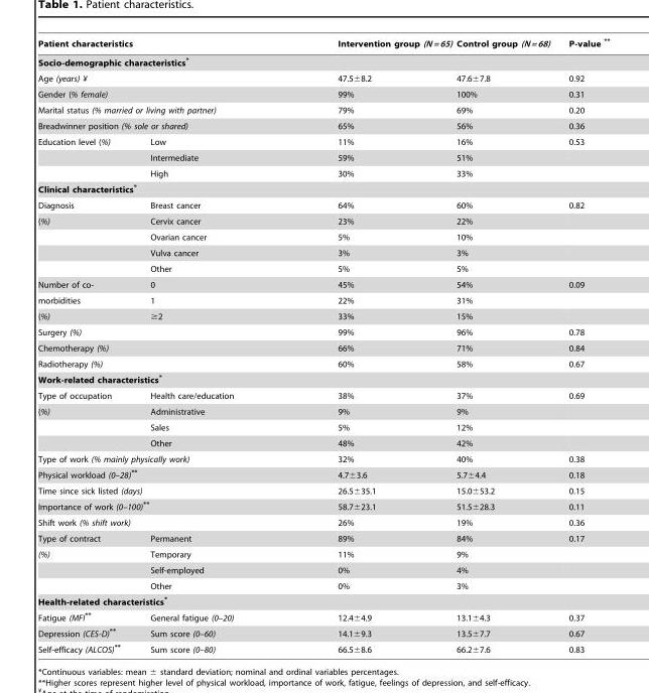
<table><thead><tr><td colspan="2">Patient characteristics</td><td>Intervention group (N = 65)</td><td>Control group (N = 68)</td><td>P-value **</td></tr></thead><tbody><tr><td colspan="5">Socio-demographic characteristics*</td></tr><tr><td colspan="2">Age (years) ¥</td><td>47.5±8.2</td><td>47.6±7.8</td><td>0.92</td></tr><tr><td colspan="2">Gender (% female)</td><td>99%</td><td>100%</td><td>0.31</td></tr><tr><td colspan="2">Marital status (% married or living with partner)</td><td>79%</td><td>69%</td><td>0.20</td></tr><tr><td colspan="2">Breadwinner position (% sole or shared)</td><td>65%</td><td>56%</td><td>0.36</td></tr><tr><td rowspan="3">Education level (%)</td><td>Low</td><td>11%</td><td>16%</td><td>0.53</td></tr><tr><td>Intermediate</td><td>59%</td><td>51%</td><td></td></tr><tr><td>High</td><td>30%</td><td>33%</td><td></td></tr><tr><td colspan="5">Clinical characteristics*</td></tr><tr><td>Diagnosis</td><td>Breast cancer</td><td>64%</td><td>60%</td><td>0.82</td></tr><tr><td rowspan="4">(%)</td><td>Cervix cancer</td><td>23%</td><td>22%</td><td></td></tr><tr><td>Ovarian cancer</td><td>5%</td><td>10%</td><td></td></tr><tr><td>Vulva cancer</td><td>3%</td><td>3%</td><td></td></tr><tr><td>Other</td><td>5%</td><td>5%</td><td></td></tr><tr><td>Number of co-</td><td>0</td><td>45%</td><td>54%</td><td>0.09</td></tr><tr><td>morbidities</td><td>1</td><td>22%</td><td>31%</td><td></td></tr><tr><td>(%)</td><td>≥2</td><td>33%</td><td>15%</td><td></td></tr><tr><td colspan="2">Surgery (%)</td><td>99%</td><td>96%</td><td>0.78</td></tr><tr><td colspan="2">Chemotherapy (%)</td><td>66%</td><td>71%</td><td>0.84</td></tr><tr><td colspan="2">Radiotherapy (%)</td><td>60%</td><td>58%</td><td>0.67</td></tr><tr><td colspan="5">Work-related characteristics*</td></tr><tr><td>Type of occupation</td><td>Health care/education</td><td>38%</td><td>37%</td><td>0.69</td></tr><tr><td rowspan="3">(%)</td><td>Administrative</td><td>9%</td><td>9%</td><td></td></tr><tr><td>Sales</td><td>5%</td><td>12%</td><td></td></tr><tr><td>Other</td><td>48%</td><td>42%</td><td></td></tr><tr><td colspan="2">Type of work (% mainly physically work)</td><td>32%</td><td>40%</td><td>0.38</td></tr><tr><td colspan="2">Physical workload (0–28)**</td><td>4.7±3.6</td><td>5.7±4.4</td><td>0.18</td></tr><tr><td colspan="2">Time since sick listed (days)</td><td>26.5±35.1</td><td>15.0±53.2</td><td>0.15</td></tr><tr><td colspan="2">Importance of work (0–100)**</td><td>58.7±23.1</td><td>51.5±28.3</td><td>0.11</td></tr><tr><td colspan="2">Shift work (% shift work)</td><td>26%</td><td>19%</td><td>0.36</td></tr><tr><td>Type of contract</td><td>Permanent</td><td>89%</td><td>84%</td><td>0.17</td></tr><tr><td rowspan="3">(%)</td><td>Temporary</td><td>11%</td><td>9%</td><td></td></tr><tr><td>Self-employed</td><td>0%</td><td>4%</td><td></td></tr><tr><td>Other</td><td>0%</td><td>3%</td><td></td></tr><tr><td colspan="5">Health-related characteristics*</td></tr><tr><td>Fatigue (MFI**</td><td>General fatigue (0–20)</td><td>12.4±4.9</td><td>13.1±4.3</td><td>0.37</td></tr><tr><td>Depression (CES-D)**</td><td>Sum score (0–60)</td><td>14.1±9.3</td><td>13.5±7.7</td><td>0.67</td></tr><tr><td>Self-efficacy (ALCOS)**</td><td>Sum score (0–80)</td><td>66.5±8.6</td><td>66.2±7.6</td><td>0.83</td></tr></tbody></table>